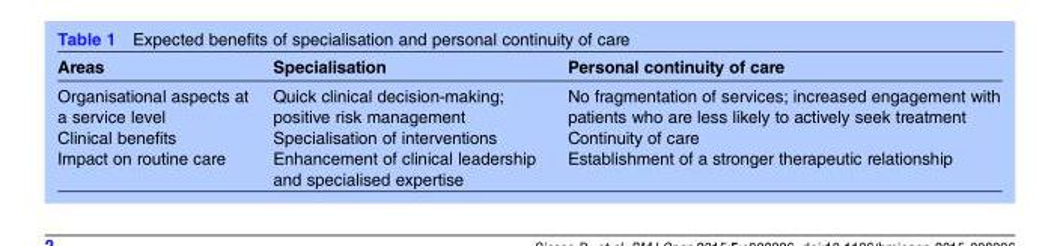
<table><thead><tr><td>Areas</td><td>Specialisation</td><td>Personal continuity of care</td></tr></thead><tbody><tr><td>Organisational aspects at a service level</td><td>Quick clinical decision-making; positive risk management</td><td>No fragmentation of services; increased engagement with patients who are less likely to actively seek treatment</td></tr><tr><td>Clinical benefits</td><td>Specialisation of interventions</td><td>Continuity of care</td></tr><tr><td>Impact on routine care</td><td>Enhancement of clinical leadership and specialised expertise</td><td>Establishment of a stronger therapeutic relationship</td></tr></tbody></table>